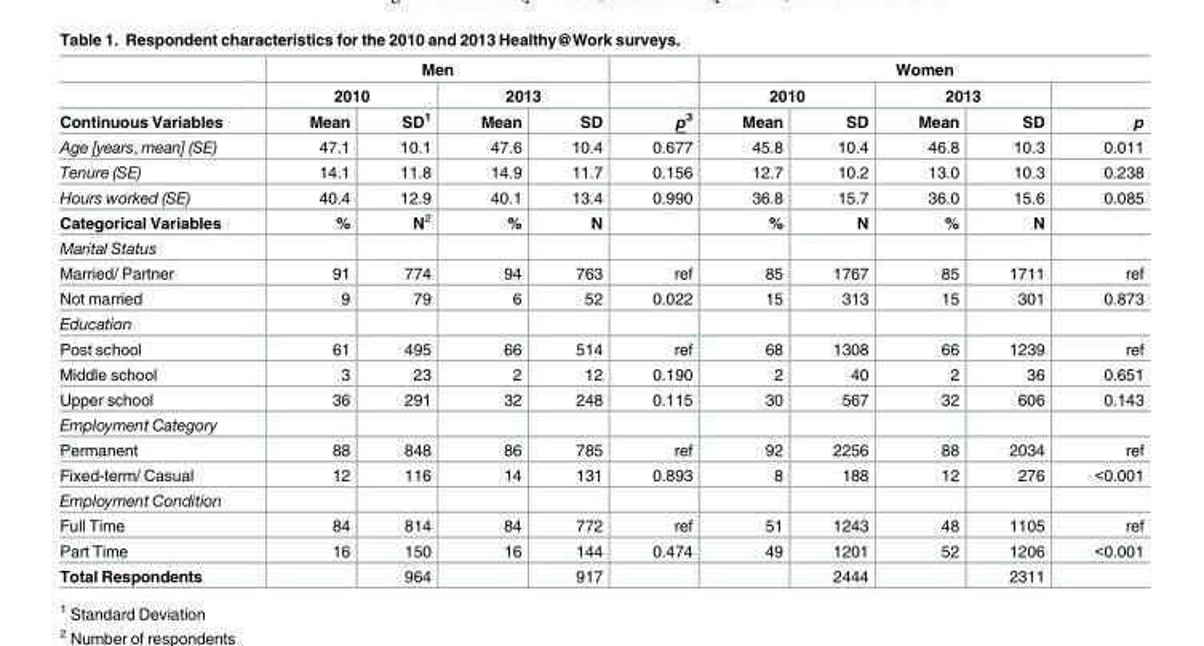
<table><thead><tr><td rowspan="3">Continuous Variables</td><td colspan="4">Men</td><td rowspan="3">p<sup>3</sup></td><td colspan="5">Women</td></tr><tr><td colspan="2">2010</td><td colspan="2">2013</td><td colspan="2">2010</td><td colspan="2">2013</td><td rowspan="2">p</td></tr><tr><td>Mean</td><td>SD<sup>1</sup></td><td>Mean</td><td>SD</td><td>Mean</td><td>SD</td><td>Mean</td><td>SD</td></tr></thead><tbody><tr><td>Age [years, mean] (SE)</td><td>47.1</td><td>10.1</td><td>47.6</td><td>10.4</td><td>0.677</td><td>45.8</td><td>10.4</td><td>46.8</td><td>10.3</td><td>0.011</td></tr><tr><td>Tenure (SE)</td><td>14.1</td><td>11.8</td><td>14.9</td><td>11.7</td><td>0.156</td><td>12.7</td><td>10.2</td><td>13.0</td><td>10.3</td><td>0.238</td></tr><tr><td>Hours worked (SE)</td><td>40.4</td><td>12.9</td><td>40.1</td><td>13.4</td><td>0.990</td><td>36.8</td><td>15.7</td><td>36.0</td><td>15.6</td><td>0.085</td></tr><tr><td>Categorical Variables</td><td>%</td><td>N<sup>2</sup></td><td>%</td><td>N</td><td></td><td>%</td><td>N</td><td>%</td><td>N</td><td></td></tr><tr><td colspan="11">Marital Status</td></tr><tr><td>Married/ Partner</td><td>91</td><td>774</td><td>94</td><td>763</td><td>ref</td><td>85</td><td>1767</td><td>85</td><td>1711</td><td>ref</td></tr><tr><td>Not married</td><td>9</td><td>79</td><td>6</td><td>52</td><td>0.022</td><td>15</td><td>313</td><td>15</td><td>301</td><td>0.873</td></tr><tr><td colspan="11">Education</td></tr><tr><td>Post school</td><td>61</td><td>495</td><td>66</td><td>514</td><td>ref</td><td>68</td><td>1308</td><td>66</td><td>1239</td><td>ref</td></tr><tr><td>Middle school</td><td>3</td><td>23</td><td>2</td><td>12</td><td>0.190</td><td>2</td><td>40</td><td>2</td><td>36</td><td>0.651</td></tr><tr><td>Upper school</td><td>36</td><td>291</td><td>32</td><td>248</td><td>0.115</td><td>30</td><td>567</td><td>32</td><td>606</td><td>0.143</td></tr><tr><td colspan="11">Employment Category</td></tr><tr><td>Permanent</td><td>88</td><td>848</td><td>86</td><td>785</td><td>ref</td><td>92</td><td>2256</td><td>88</td><td>2034</td><td>ref</td></tr><tr><td>Fixed-term/ Casual</td><td>12</td><td>116</td><td>14</td><td>131</td><td>0.893</td><td>8</td><td>188</td><td>12</td><td>276</td><td>&lt;0.001</td></tr><tr><td colspan="11">Employment Condition</td></tr><tr><td>Full Time</td><td>84</td><td>814</td><td>84</td><td>772</td><td>ref</td><td>51</td><td>1243</td><td>48</td><td>1105</td><td>ref</td></tr><tr><td>Part Time</td><td>16</td><td>150</td><td>16</td><td>144</td><td>0.474</td><td>49</td><td>1201</td><td>52</td><td>1206</td><td>&lt;0.001</td></tr><tr><td>Total Respondents</td><td></td><td>964</td><td></td><td>917</td><td></td><td></td><td>2444</td><td></td><td>2311</td><td></td></tr></tbody></table>